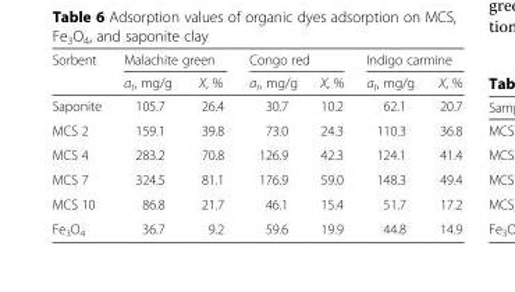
<table><thead><tr><td rowspan="2">Sorbent</td><td colspan="2">Malachite green</td><td colspan="2">Congo red</td><td colspan="2">Indigo carmine</td></tr><tr><td>а<sub>t</sub>, mg/g</td><td>Х, %</td><td>а<sub>t</sub>, mg/g</td><td>Х, %</td><td>а<sub>t</sub>, mg/g</td><td>Х, %</td></tr></thead><tbody><tr><td>Saponite</td><td>105.7</td><td>26.4</td><td>30.7</td><td>10.2</td><td>62.1</td><td>20.7</td></tr><tr><td>MCS 2</td><td>159.1</td><td>39.8</td><td>73.0</td><td>24.3</td><td>110.3</td><td>36.8</td></tr><tr><td>MCS 4</td><td>283.2</td><td>70.8</td><td>126.9</td><td>42.3</td><td>124.1</td><td>41.4</td></tr><tr><td>MCS 7</td><td>324.5</td><td>81.1</td><td>176.9</td><td>59.0</td><td>148.3</td><td>49.4</td></tr><tr><td>MCS 10</td><td>86.8</td><td>21.7</td><td>46.1</td><td>15.4</td><td>51.7</td><td>17.2</td></tr><tr><td>Fe<sub>3</sub>O<sub>4</sub></td><td>36.7</td><td>9.2</td><td>59.6</td><td>19.9</td><td>44.8</td><td>14.9</td></tr></tbody></table>